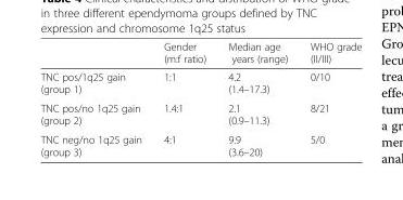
<table><thead><tr><td></td><td>Gender (m:f ratio)</td><td>Median age years (range)</td><td>WHO grade (II/III)</td></tr></thead><tbody><tr><td>TNC pos/1q25 gain (group 1)</td><td>1:1</td><td>4.2 (1.4–17.3)</td><td>0/10</td></tr><tr><td>TNC pos/no 1q25 gain (group 2)</td><td>1.4:1</td><td>2.1 (0.9–11.3)</td><td>8/21</td></tr><tr><td>TNC neg/no 1q25 gain (group 3)</td><td>4:1</td><td>9.9 (3.6–20)</td><td>5/0</td></tr></tbody></table>